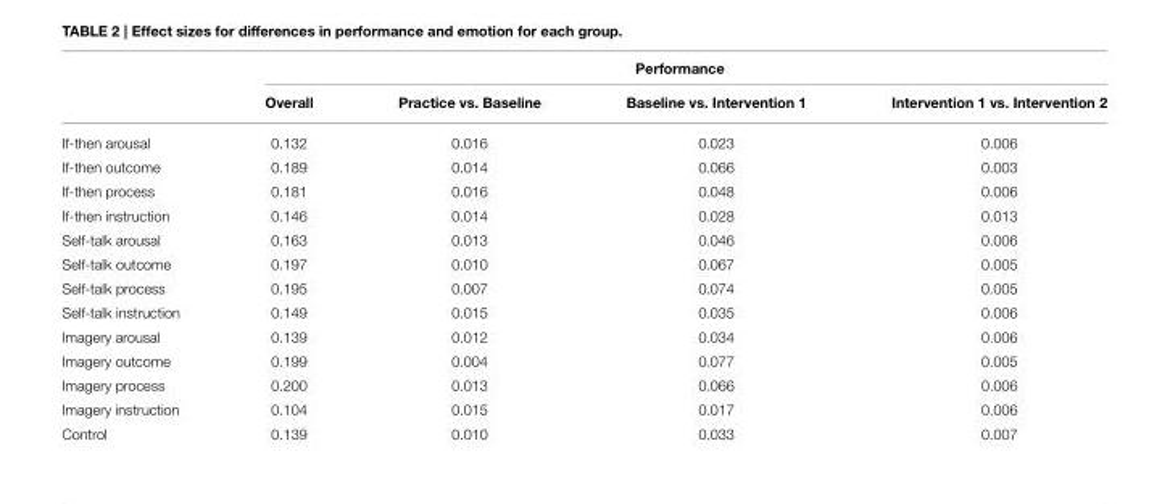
<table><thead><tr><td rowspan="2"></td><td colspan="4">Performance</td></tr><tr><td>Overall</td><td>Practice vs. Baseline</td><td>Baseline vs. Intervention 1</td><td>Intervention 1 vs. Intervention 2</td></tr></thead><tbody><tr><td>If-then arousal</td><td>0.132</td><td>0.016</td><td>0.023</td><td>0.006</td></tr><tr><td>If-then outcome</td><td>0.189</td><td>0.014</td><td>0.066</td><td>0.003</td></tr><tr><td>If-then process</td><td>0.181</td><td>0.016</td><td>0.048</td><td>0.006</td></tr><tr><td>If-then instruction</td><td>0.146</td><td>0.014</td><td>0.028</td><td>0.013</td></tr><tr><td>Self-talk arousal</td><td>0.163</td><td>0.013</td><td>0.046</td><td>0.006</td></tr><tr><td>Self-talk outcome</td><td>0.197</td><td>0.010</td><td>0.067</td><td>0.005</td></tr><tr><td>Self-talk process</td><td>0.195</td><td>0.007</td><td>0.074</td><td>0.005</td></tr><tr><td>Self-talk instruction</td><td>0.149</td><td>0.015</td><td>0.035</td><td>0.006</td></tr><tr><td>Imagery arousal</td><td>0.139</td><td>0.012</td><td>0.034</td><td>0.006</td></tr><tr><td>Imagery outcome</td><td>0.199</td><td>0.004</td><td>0.077</td><td>0.005</td></tr><tr><td>Imagery process</td><td>0.200</td><td>0.013</td><td>0.066</td><td>0.006</td></tr><tr><td>Imagery instruction</td><td>0.104</td><td>0.015</td><td>0.017</td><td>0.006</td></tr><tr><td>Control</td><td>0.139</td><td>0.010</td><td>0.033</td><td>0.007</td></tr></tbody></table>